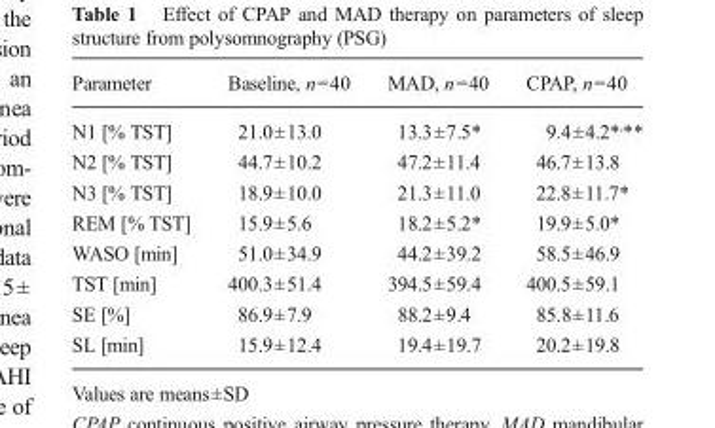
<table><thead><tr><td>Parameter</td><td>Baseline, n=40</td><td>MAD, n=40</td><td>CPAP, n=40</td></tr></thead><tbody><tr><td>N1 [% TST]</td><td>21.0±13.0</td><td>13.3±7.5*</td><td>9.4±4.2*<sup>,</sup>**</td></tr><tr><td>N2 [% TST]</td><td>44.7±10.2</td><td>47.2±11.4</td><td>46.7±13.8</td></tr><tr><td>N3 [% TST]</td><td>18.9±10.0</td><td>21.3±11.0</td><td>22.8±11.7*</td></tr><tr><td>REM [% TST]</td><td>15.9±5.6</td><td>18.2±5.2*</td><td>19.9±5.0*</td></tr><tr><td>WASO [min]</td><td>51.0±34.9</td><td>44.2±39.2</td><td>58.5±46.9</td></tr><tr><td>TST [min]</td><td>400.3±51.4</td><td>394.5±59.4</td><td>400.5±59.1</td></tr><tr><td>SE [%]</td><td>86.9±7.9</td><td>88.2±9.4</td><td>85.8±11.6</td></tr><tr><td>SL [min]</td><td>15.9±12.4</td><td>19.4±19.7</td><td>20.2±19.8</td></tr></tbody></table>